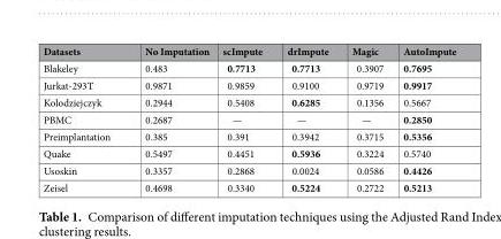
<table><thead><tr><td>Datasets</td><td>No Imputation</td><td>scImpute</td><td>drImpute</td><td>Magic</td><td>AutoImpute</td></tr></thead><tbody><tr><td>Blakeley</td><td>0.483</td><td>0.7713</td><td>0.7713</td><td>0.3907</td><td>0.7695</td></tr><tr><td>Jurkat-293T</td><td>0.9871</td><td>0.9859</td><td>0.9100</td><td>0.9719</td><td>0.9917</td></tr><tr><td>Kolodziejczyk</td><td>0.2944</td><td>0.5408</td><td>0.6285</td><td>0.1356</td><td>0.5667</td></tr><tr><td>PBMC</td><td>0.2687</td><td>—</td><td>—</td><td>—</td><td>0.2850</td></tr><tr><td>Preimplantation</td><td>0.385</td><td>0.391</td><td>0.3942</td><td>0.3715</td><td>0.5356</td></tr><tr><td>Quake</td><td>0.5497</td><td>0.4451</td><td>0.5936</td><td>0.3224</td><td>0.5740</td></tr><tr><td>Usoskin</td><td>0.3357</td><td>0.2868</td><td>0.0024</td><td>0.0586</td><td>0.4426</td></tr><tr><td>Zeisel</td><td>0.4698</td><td>0.3340</td><td>0.5224</td><td>0.2722</td><td>0.5213</td></tr></tbody></table>